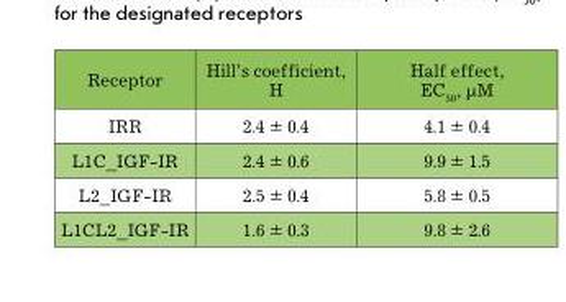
<table><thead><tr><td>Receptor</td><td>Hill’s coefficient, H</td><td>Half effect, EC<sub>50</sub>, μM</td></tr></thead><tbody><tr><td>IRR</td><td>2.4 ± 0.4</td><td>4.1 ± 0.4</td></tr><tr><td>L1C_IGF-IR</td><td>2.4 ± 0.6</td><td>9.9 ± 1.5</td></tr><tr><td>L2_IGF-IR</td><td>2.5 ± 0.4</td><td>5.8 ± 0.5</td></tr><tr><td>L1CL2_IGF-IR</td><td>1.6 ± 0.3</td><td>9.8 ± 2.6</td></tr></tbody></table>